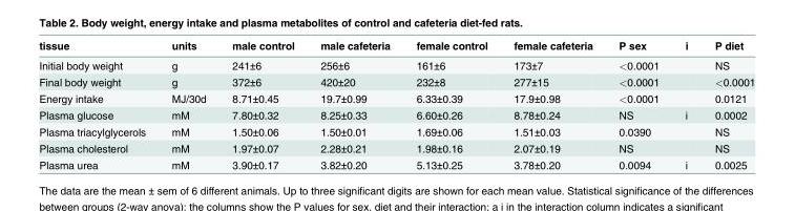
<table><thead><tr><td>tissue</td><td>units</td><td>male control</td><td>male cafeteria</td><td>female control</td><td>female cafeteria</td><td>P sex</td><td>i</td><td>P diet</td></tr></thead><tbody><tr><td>Initial body weight</td><td>g</td><td>241±6</td><td>256±6</td><td>161±6</td><td>173±7</td><td>&lt;0.0001</td><td></td><td>NS</td></tr><tr><td>Final body weight</td><td>g</td><td>372±6</td><td>420±20</td><td>232±8</td><td>277±15</td><td>&lt;0.0001</td><td></td><td>&lt;0.0001</td></tr><tr><td>Energy intake</td><td>MJ/30d</td><td>8.71±0.45</td><td>19.7±0.99</td><td>6.33±0.39</td><td>17.9±0.98</td><td>&lt;0.0001</td><td></td><td>0.0121</td></tr><tr><td>Plasma glucose</td><td>mM</td><td>7.80±0.32</td><td>8.25±0.33</td><td>6.60±0.26</td><td>8.78±0.24</td><td>NS</td><td>i</td><td>0.0002</td></tr><tr><td>Plasma triacylglycerols</td><td>mM</td><td>1.50±0.06</td><td>1.50±0.01</td><td>1.69±0.06</td><td>1.51±0.03</td><td>0.0390</td><td></td><td>NS</td></tr><tr><td>Plasma cholesterol</td><td>mM</td><td>1.97±0.07</td><td>2.28±0.21</td><td>1.98±0.16</td><td>2.07±0.19</td><td>NS</td><td></td><td>NS</td></tr><tr><td>Plasma urea</td><td>mM</td><td>3.90±0.17</td><td>3.82±0.20</td><td>5.13±0.25</td><td>3.78±0.20</td><td>0.0094</td><td>i</td><td>0.0025</td></tr></tbody></table>